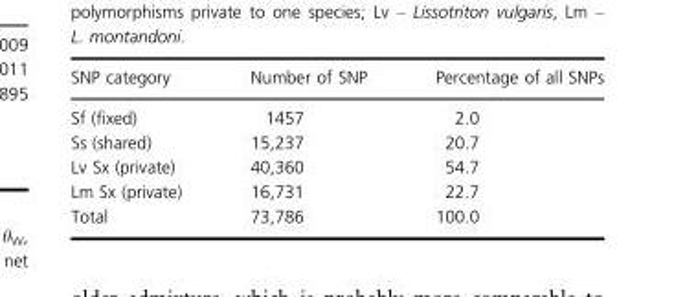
<table><thead><tr><td>SNP category</td><td>Number of SNP</td><td>Percentage of all SNPs</td></tr></thead><tbody><tr><td>Sf (fixed)</td><td>1457</td><td>2.0</td></tr><tr><td>Ss (shared)</td><td>15,237</td><td>20.7</td></tr><tr><td>Lv Sx (private)</td><td>40,360</td><td>54.7</td></tr><tr><td>Lm Sx (private)</td><td>16,731</td><td>22.7</td></tr><tr><td>Total</td><td>73,786</td><td>100.0</td></tr></tbody></table>